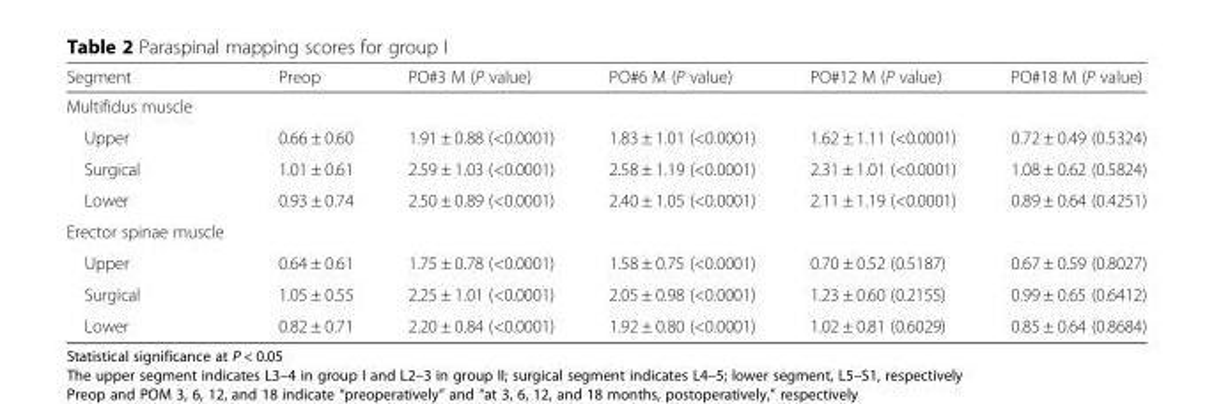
<table><thead><tr><td>Segment</td><td>Preop</td><td>PO#3 M (P value)</td><td>PO#6 M (P value)</td><td>PO#12 M (P value)</td><td>PO#18 M (P value)</td></tr></thead><tbody><tr><td colspan="6">Multifidus muscle</td></tr><tr><td>Upper</td><td>0.66 ± 0.60</td><td>1.91 ± 0.88 (&lt;0.0001)</td><td>1.83 ± 1.01 (&lt;0.0001)</td><td>1.62 ± 1.11 (&lt;0.0001)</td><td>0.72 ± 0.49 (0.5324)</td></tr><tr><td>Surgical</td><td>1.01 ± 0.61</td><td>2.59 ± 1.03 (&lt;0.0001)</td><td>2.58 ± 1.19 (&lt;0.0001)</td><td>2.31 ± 1.01 (&lt;0.0001)</td><td>1.08 ± 0.62 (0.5824)</td></tr><tr><td>Lower</td><td>0.93 ± 0.74</td><td>2.50 ± 0.89 (&lt;0.0001)</td><td>2.40 ± 1.05 (&lt;0.0001)</td><td>2.11 ± 1.19 (&lt;0.0001)</td><td>0.89 ± 0.64 (0.4251)</td></tr><tr><td colspan="6">Erector spinae muscle</td></tr><tr><td>Upper</td><td>0.64 ± 0.61</td><td>1.75 ± 0.78 (&lt;0.0001)</td><td>1.58 ± 0.75 (&lt;0.0001)</td><td>0.70 ± 0.52 (0.5187)</td><td>0.67 ± 0.59 (0.8027)</td></tr><tr><td>Surgical</td><td>1.05 ± 0.55</td><td>2.25 ± 1.01 (&lt;0.0001)</td><td>2.05 ± 0.98 (&lt;0.0001)</td><td>1.23 ± 0.60 (0.2155)</td><td>0.99 ± 0.65 (0.6412)</td></tr><tr><td>Lower</td><td>0.82 ± 0.71</td><td>2.20 ± 0.84 (&lt;0.0001)</td><td>1.92 ± 0.80 (&lt;0.0001)</td><td>1.02 ± 0.81 (0.6029)</td><td>0.85 ± 0.64 (0.8684)</td></tr></tbody></table>